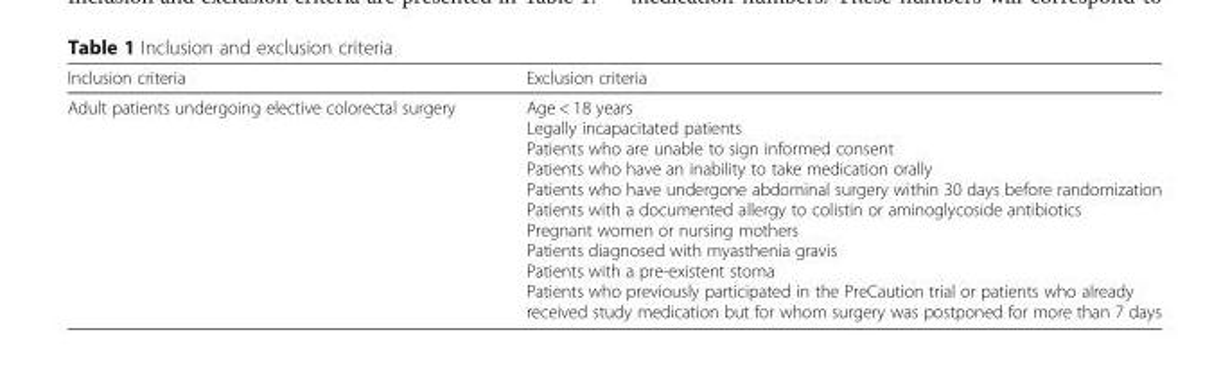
<table><thead><tr><td>Inclusion criteria</td><td>Exclusion criteria</td></tr></thead><tbody><tr><td>Adult patients undergoing elective colorectal surgery</td><td>Age &lt; 18 years Legally incapacitated patients Patients who are unable to sign informed consent Patients who have an inability to take medication orally Patients who have undergone abdominal surgery within 30 days before randomization Patients with a documented allergy to colistin or aminoglycoside antibiotics Pregnant women or nursing mothers Patients diagnosed with myasthenia gravis Patients with a pre-existent stoma Patients who previously participated in the PreCaution trial or patients who already received study medication but for whom surgery was postponed for more than 7 days</td></tr></tbody></table>